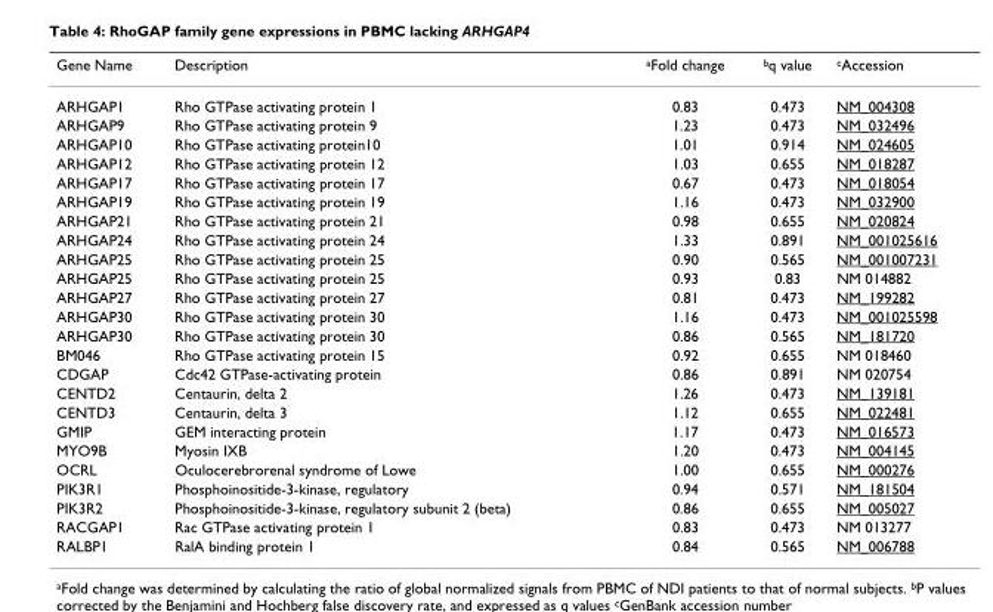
<table><thead><tr><td>Gene Name</td><td>Description</td><td><sup>a</sup>Fold change</td><td><sup>b</sup>q value</td><td><sup>c</sup>Accession</td></tr></thead><tbody><tr><td>ARHGAP1</td><td>Rho GTPase activating protein 1</td><td>0.83</td><td>0.473</td><td>NM_004308</td></tr><tr><td>ARHGAP9</td><td>Rho GTPase activating protein 9</td><td>1.23</td><td>0.473</td><td>NM_032496</td></tr><tr><td>ARHGAP10</td><td>Rho GTPase activating protein10</td><td>1.01</td><td>0.914</td><td>NM_024605</td></tr><tr><td>ARHGAP12</td><td>Rho GTPase activating protein 12</td><td>1.03</td><td>0.655</td><td>NM_018287</td></tr><tr><td>ARHGAP17</td><td>Rho GTPase activating protein 17</td><td>0.67</td><td>0.473</td><td>NM_018054</td></tr><tr><td>ARHGAP19</td><td>Rho GTPase activating protein 19</td><td>1.16</td><td>0.473</td><td>NM_032900</td></tr><tr><td>ARHGAP21</td><td>Rho GTPase activating protein 21</td><td>0.98</td><td>0.655</td><td>NM_020824</td></tr><tr><td>ARHGAP24</td><td>Rho GTPase activating protein 24</td><td>1.33</td><td>0.891</td><td>NM_001025616</td></tr><tr><td>ARHGAP25</td><td>Rho GTPase activating protein 25</td><td>0.90</td><td>0.565</td><td>NM_001007231</td></tr><tr><td>ARHGAP25</td><td>Rho GTPase activating protein 25</td><td>0.93</td><td>0.83</td><td>NM 014882</td></tr><tr><td>ARHGAP27</td><td>Rho GTPase activating protein 27</td><td>0.81</td><td>0.473</td><td>NM_199282</td></tr><tr><td>ARHGAP30</td><td>Rho GTPase activating protein 30</td><td>1.16</td><td>0.473</td><td>NM_001025598</td></tr><tr><td>ARHGAP30</td><td>Rho GTPase activating protein 30</td><td>0.86</td><td>0.565</td><td>NM_181720</td></tr><tr><td>BM046</td><td>Rho GTPase activating protein 15</td><td>0.92</td><td>0.655</td><td>NM 018460</td></tr><tr><td>CDGAP</td><td>Cdc42 GTPase-activating protein</td><td>0.86</td><td>0.891</td><td>NM 020754</td></tr><tr><td>CENTD2</td><td>Centaurin, delta 2</td><td>1.26</td><td>0.473</td><td>NM_139181</td></tr><tr><td>CENTD3</td><td>Centaurin, delta 3</td><td>1.12</td><td>0.655</td><td>NM_022481</td></tr><tr><td>GMIP</td><td>GEM interacting protein</td><td>1.17</td><td>0.473</td><td>NM_016573</td></tr><tr><td>MYO9B</td><td>Myosin IXB</td><td>1.20</td><td>0.473</td><td>NM_004145</td></tr><tr><td>OCRL</td><td>Oculocerebrorenal syndrome of Lowe</td><td>1.00</td><td>0.655</td><td>NM_000276</td></tr><tr><td>PIK3R1</td><td>Phosphoinositide-3-kinase, regulatory</td><td>0.94</td><td>0.571</td><td>NM_181504</td></tr><tr><td>PIK3R2</td><td>Phosphoinositide-3-kinase, regulatory subunit 2 (beta)</td><td>0.86</td><td>0.655</td><td>NM_005027</td></tr><tr><td>RACGAP1</td><td>Rac GTPase activating protein 1</td><td>0.83</td><td>0.473</td><td>NM 013277</td></tr><tr><td>RALBP1</td><td>RalA binding protein 1</td><td>0.84</td><td>0.565</td><td>NM_006788</td></tr></tbody></table>